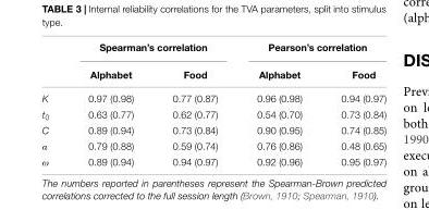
<table><thead><tr><td rowspan="2"></td><td colspan="2">Spearman’s correlation</td><td colspan="2">Pearson’s correlation</td></tr><tr><td>Alphabet</td><td>Food</td><td>Alphabet</td><td>Food</td></tr></thead><tbody><tr><td>K</td><td>0.97 (0.98)</td><td>0.77 (0.87)</td><td>0.96 (0.98)</td><td>0.94 (0.97)</td></tr><tr><td>t<sub>0</sub></td><td>0.63 (0.77)</td><td>0.62 (0.77)</td><td>0.54 (0.70)</td><td>0.73 (0.84)</td></tr><tr><td>C</td><td>0.89 (0.94)</td><td>0.73 (0.84)</td><td>0.90 (0.95)</td><td>0.74 (0.85)</td></tr><tr><td>α</td><td>0.79 (0.88)</td><td>0.59 (0.74)</td><td>0.76 (0.86)</td><td>0.48 (0.65)</td></tr><tr><td>ω</td><td>0.89 (0.94)</td><td>0.94 (0.97)</td><td>0.92 (0.96)</td><td>0.95 (0.97)</td></tr></tbody></table>